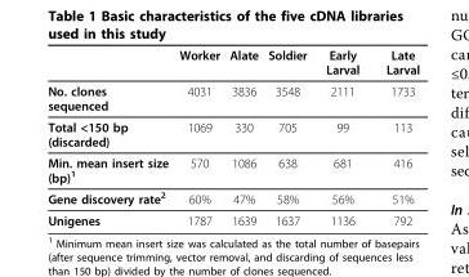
<table><thead><tr><td></td><td>Worker</td><td>Alate</td><td>Soldier</td><td>Early Larval</td><td>Late Larval</td></tr></thead><tbody><tr><td>No. clones sequenced</td><td>4031</td><td>3836</td><td>3548</td><td>2111</td><td>1733</td></tr><tr><td>Total &lt;150 bp (discarded)</td><td>1069</td><td>330</td><td>705</td><td>99</td><td>113</td></tr><tr><td>Min. mean insert size (bp)<sup>1</sup></td><td>570</td><td>1086</td><td>638</td><td>681</td><td>416</td></tr><tr><td>Gene discovery rate<sup>2</sup></td><td>60%</td><td>47%</td><td>58%</td><td>56%</td><td>51%</td></tr><tr><td>Unigenes</td><td>1787</td><td>1639</td><td>1637</td><td>1136</td><td>792</td></tr></tbody></table>